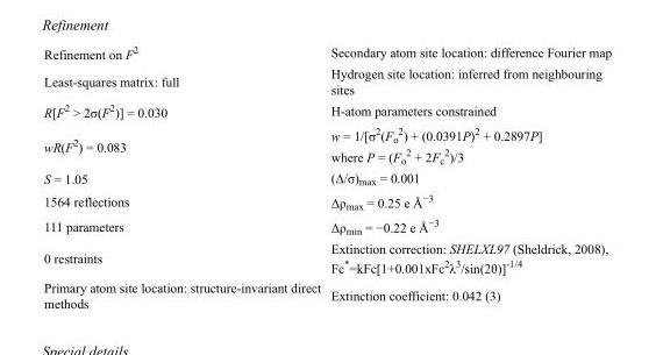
<table><tbody><tr><td>Refinement on F<sup>2</sup></td><td>Secondary atom site location: difference Fourier map</td></tr><tr><td>Least-squares matrix: full</td><td>Hydrogen site location: inferred from neighbouring sites</td></tr><tr><td>R[F<sup>2</sup> &gt; 2σ(F<sup>2</sup>)] = 0.030</td><td>H-atom parameters constrained</td></tr><tr><td>wR(F<sup>2</sup>) = 0.083</td><td>w = 1/[σ<sup>2</sup>(F<sub>o</sub> <sup>2</sup>) + (0.0391P)<sup>2</sup> + 0.2897P] where P = (F<sub>o</sub> <sup>2</sup> + 2F<sub>c</sub> <sup>2</sup>)/3</td></tr><tr><td>S = 1.05</td><td>(Δ/σ)<sub>max</sub> = 0.001</td></tr><tr><td>1564 reflections</td><td>Δρ<sub>max</sub> = 0.25 e Å<sup>−3</sup></td></tr><tr><td>111 parameters</td><td>Δρ<sub>min</sub> = −0.22 e Å<sup>−3</sup></td></tr><tr><td>0 restraints</td><td>Extinction correction: SHELXL97 (Sheldrick, 2008), Fc*=kFc[1+0.001xFc<sup>2</sup>λ<sup>3</sup>/sin(2θ)]<sup>-1/4</sup></td></tr><tr><td>Primary atom site location: structure-invariant direct methods</td><td>Extinction coefficient: 0.042 (3)</td></tr></tbody></table>